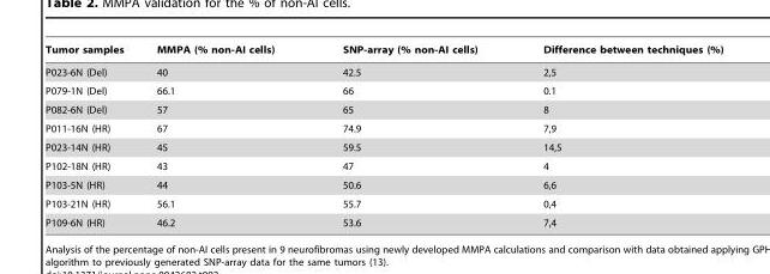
<table><thead><tr><td>Tumor samples</td><td>MMPA (% non-AI cells)</td><td>SNP-array (% non-AI cells)</td><td>Difference between techniques (%)</td></tr></thead><tbody><tr><td>P023-6N (Del)</td><td>40</td><td>42.5</td><td>2,5</td></tr><tr><td>P079-1N (Del)</td><td>66.1</td><td>66</td><td>0.1</td></tr><tr><td>P082-6N (Del)</td><td>57</td><td>65</td><td>8</td></tr><tr><td>P011-16N (HR)</td><td>67</td><td>74.9</td><td>7,9</td></tr><tr><td>P023-14N (HR)</td><td>45</td><td>59.5</td><td>14,5</td></tr><tr><td>P102-18N (HR)</td><td>43</td><td>47</td><td>4</td></tr><tr><td>P103-5N (HR)</td><td>44</td><td>50.6</td><td>6,6</td></tr><tr><td>P103-21N (HR)</td><td>56.1</td><td>55.7</td><td>0,4</td></tr><tr><td>P109-6N (HR)</td><td>46.2</td><td>53.6</td><td>7,4</td></tr></tbody></table>